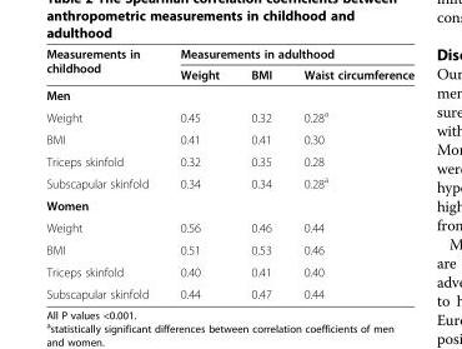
<table><thead><tr><td rowspan="2">Measurements in childhood</td><td colspan="3">Measurements in adulthood</td></tr><tr><td>Weight</td><td>BMI</td><td>Waist circumference</td></tr></thead><tbody><tr><td colspan="4">Men</td></tr><tr><td>Weight</td><td>0.45</td><td>0.32</td><td>0.28<sup>a</sup></td></tr><tr><td>BMI</td><td>0.41</td><td>0.41</td><td>0.30</td></tr><tr><td>Triceps skinfold</td><td>0.32</td><td>0.35</td><td>0.28</td></tr><tr><td>Subscapular skinfold</td><td>0.34</td><td>0.34</td><td>0.28<sup>a</sup></td></tr><tr><td colspan="4">Women</td></tr><tr><td>Weight</td><td>0.56</td><td>0.46</td><td>0.44</td></tr><tr><td>BMI</td><td>0.51</td><td>0.53</td><td>0.46</td></tr><tr><td>Triceps skinfold</td><td>0.40</td><td>0.41</td><td>0.40</td></tr><tr><td>Subscapular skinfold</td><td>0.44</td><td>0.47</td><td>0.44</td></tr></tbody></table>